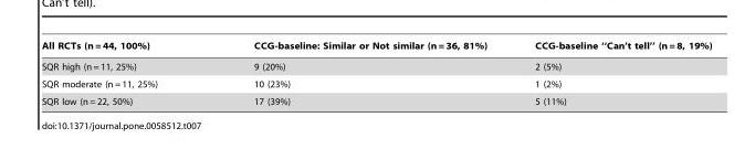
<table><thead><tr><td>All RCTs (n = 44, 100%)</td><td>CCG-baseline: Similar or Not similar (n = 36, 81%)</td><td>CCG-baseline ‘‘Can’t tell’’ (n = 8, 19%)</td></tr></thead><tbody><tr><td>SQR high (n = 11, 25%)</td><td>9 (20%)</td><td>2 (5%)</td></tr><tr><td>SQR moderate (n = 11, 25%)</td><td>10 (23%)</td><td>1 (2%)</td></tr><tr><td>SQR low (n = 22, 50%)</td><td>17 (39%)</td><td>5 (11%)</td></tr></tbody></table>